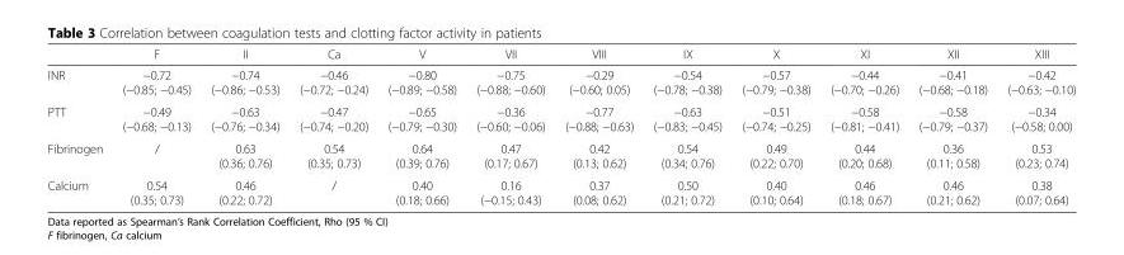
<table><thead><tr><td></td><td>F</td><td>II</td><td>Ca</td><td>V</td><td>VII</td><td>VIII</td><td>IX</td><td>X</td><td>XI</td><td>XII</td><td>XIII</td></tr></thead><tbody><tr><td>INR</td><td>−0.72 (−0.85; −0.45)</td><td>−0.74 (−0.86; −0.53)</td><td>−0.46 (−0.72; −0.24)</td><td>−0.80 (−0.89; −0.58)</td><td>−0.75 (−0.88; −0.60)</td><td>−0.29 (−0.60; 0.05)</td><td>−0.54 (−0.78; −0.38)</td><td>−0.57 (−0.79; −0.38)</td><td>−0.44 (−0.70; −0.26)</td><td>−0.41 (−0.68; −0.18)</td><td>−0.42 (−0.63; −0.10)</td></tr><tr><td>PTT</td><td>−0.49 (−0.68; −0.13)</td><td>−0.63 (−0.76; −0.34)</td><td>−0.47 (−0.74; −0.20)</td><td>−0.65 (−0.79; −0.30)</td><td>−0.36 (−0.60; −0.06)</td><td>−0.77 (−0.88; −0.63)</td><td>−0.63 (−0.83; −0.45)</td><td>−0.51 (−0.74; −0.25)</td><td>−0.58 (−0.81; −0.41)</td><td>−0.58 (−0.79; −0.37)</td><td>−0.34 (−0.58; 0.00)</td></tr><tr><td>Fibrinogen</td><td>/</td><td>0.63 (0.36; 0.76)</td><td>0.54 (0.35; 0.73)</td><td>0.64 (0.39; 0.76)</td><td>0.47 (0.17; 0.67)</td><td>0.42 (0.13; 0.62)</td><td>0.54 (0.34; 0.76)</td><td>0.49 (0.22; 0.70)</td><td>0.44 (0.20; 0.68)</td><td>0.36 (0.11; 0.58)</td><td>0.53 (0.23; 0.74)</td></tr><tr><td>Calcium</td><td>0.54 (0.35; 0.73)</td><td>0.46 (0.22; 0.72)</td><td>/</td><td>0.40 (0.18; 0.66)</td><td>0.16 (−0.15; 0.43)</td><td>0.37 (0.08; 0.62)</td><td>0.50 (0.21; 0.72)</td><td>0.40 (0.10; 0.64)</td><td>0.46 (0.18; 0.67)</td><td>0.46 (0.21; 0.62)</td><td>0.38 (0.07; 0.64)</td></tr></tbody></table>